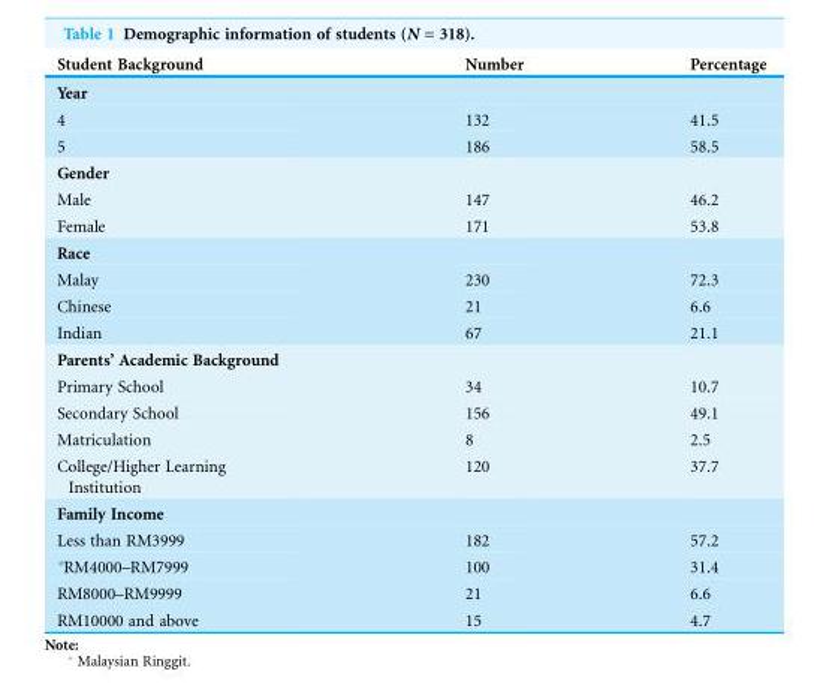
<table><thead><tr><td>Student Background</td><td>Number</td><td>Percentage</td></tr></thead><tbody><tr><td colspan="3">Year</td></tr><tr><td>4</td><td>132</td><td>41.5</td></tr><tr><td>5</td><td>186</td><td>58.5</td></tr><tr><td colspan="3">Gender</td></tr><tr><td>Male</td><td>147</td><td>46.2</td></tr><tr><td>Female</td><td>171</td><td>53.8</td></tr><tr><td colspan="3">Race</td></tr><tr><td>Malay</td><td>230</td><td>72.3</td></tr><tr><td>Chinese</td><td>21</td><td>6.6</td></tr><tr><td>Indian</td><td>67</td><td>21.1</td></tr><tr><td colspan="3">Parents’ Academic Background</td></tr><tr><td>Primary School</td><td>34</td><td>10.7</td></tr><tr><td>Secondary School</td><td>156</td><td>49.1</td></tr><tr><td>Matriculation</td><td>8</td><td>2.5</td></tr><tr><td>College/Higher Learning Institution</td><td>120</td><td>37.7</td></tr><tr><td colspan="3">Family Income</td></tr><tr><td>Less than RM3999</td><td>182</td><td>57.2</td></tr><tr><td>*RM4000–RM7999</td><td>100</td><td>31.4</td></tr><tr><td>RM8000–RM9999</td><td>21</td><td>6.6</td></tr><tr><td>RM10000 and above</td><td>15</td><td>4.7</td></tr></tbody></table>